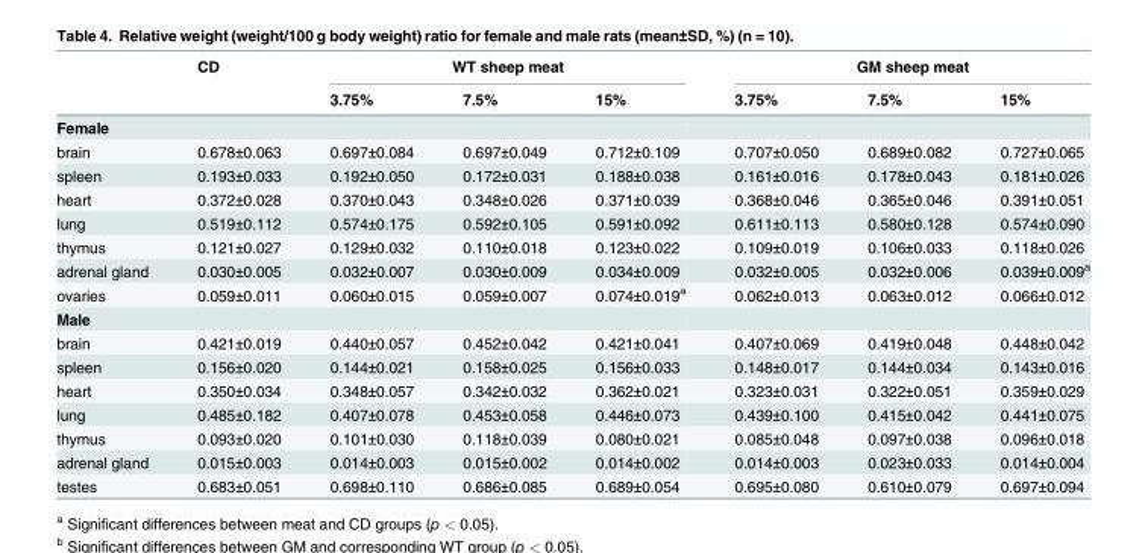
<table><thead><tr><td rowspan="2"></td><td rowspan="2">CD</td><td colspan="3">WT sheep meat</td><td colspan="3">GM sheep meat</td></tr><tr><td>3.75%</td><td>7.5%</td><td>15%</td><td>3.75%</td><td>7.5%</td><td>15%</td></tr></thead><tbody><tr><td colspan="8">Female</td></tr><tr><td>brain</td><td>0.678±0.063</td><td>0.697±0.084</td><td>0.697±0.049</td><td>0.712±0.109</td><td>0.707±0.050</td><td>0.689±0.082</td><td>0.727±0.065</td></tr><tr><td>spleen</td><td>0.193±0.033</td><td>0.192±0.050</td><td>0.172±0.031</td><td>0.188±0.038</td><td>0.161±0.016</td><td>0.178±0.043</td><td>0.181±0.026</td></tr><tr><td>heart</td><td>0.372±0.028</td><td>0.370±0.043</td><td>0.348±0.026</td><td>0.371±0.039</td><td>0.368±0.046</td><td>0.365±0.046</td><td>0.391±0.051</td></tr><tr><td>lung</td><td>0.519±0.112</td><td>0.574±0.175</td><td>0.592±0.105</td><td>0.591±0.092</td><td>0.611±0.113</td><td>0.580±0.128</td><td>0.574±0.090</td></tr><tr><td>thymus</td><td>0.121±0.027</td><td>0.129±0.032</td><td>0.110±0.018</td><td>0.123±0.022</td><td>0.109±0.019</td><td>0.106±0.033</td><td>0.118±0.026</td></tr><tr><td>adrenal gland</td><td>0.030±0.005</td><td>0.032±0.007</td><td>0.030±0.009</td><td>0.034±0.009</td><td>0.032±0.005</td><td>0.032±0.006</td><td>0.039±0.009<sup>a</sup></td></tr><tr><td>ovaries</td><td>0.059±0.011</td><td>0.060±0.015</td><td>0.059±0.007</td><td>0.074±0.019<sup>a</sup></td><td>0.062±0.013</td><td>0.063±0.012</td><td>0.066±0.012</td></tr><tr><td colspan="8">Male</td></tr><tr><td>brain</td><td>0.421±0.019</td><td>0.440±0.057</td><td>0.452±0.042</td><td>0.421±0.041</td><td>0.407±0.069</td><td>0.419±0.048</td><td>0.448±0.042</td></tr><tr><td>spleen</td><td>0.156±0.020</td><td>0.144±0.021</td><td>0.158±0.025</td><td>0.156±0.033</td><td>0.148±0.017</td><td>0.144±0.034</td><td>0.143±0.016</td></tr><tr><td>heart</td><td>0.350±0.034</td><td>0.348±0.057</td><td>0.342±0.032</td><td>0.362±0.021</td><td>0.323±0.031</td><td>0.322±0.051</td><td>0.359±0.029</td></tr><tr><td>lung</td><td>0.485±0.182</td><td>0.407±0.078</td><td>0.453±0.058</td><td>0.446±0.073</td><td>0.439±0.100</td><td>0.415±0.042</td><td>0.441±0.075</td></tr><tr><td>thymus</td><td>0.093±0.020</td><td>0.101±0.030</td><td>0.118±0.039</td><td>0.080±0.021</td><td>0.085±0.048</td><td>0.097±0.038</td><td>0.096±0.018</td></tr><tr><td>adrenal gland</td><td>0.015±0.003</td><td>0.014±0.003</td><td>0.015±0.002</td><td>0.014±0.002</td><td>0.014±0.003</td><td>0.023±0.033</td><td>0.014±0.004</td></tr><tr><td>testes</td><td>0.683±0.051</td><td>0.698±0.110</td><td>0.686±0.085</td><td>0.689±0.054</td><td>0.695±0.080</td><td>0.610±0.079</td><td>0.697±0.094</td></tr></tbody></table>